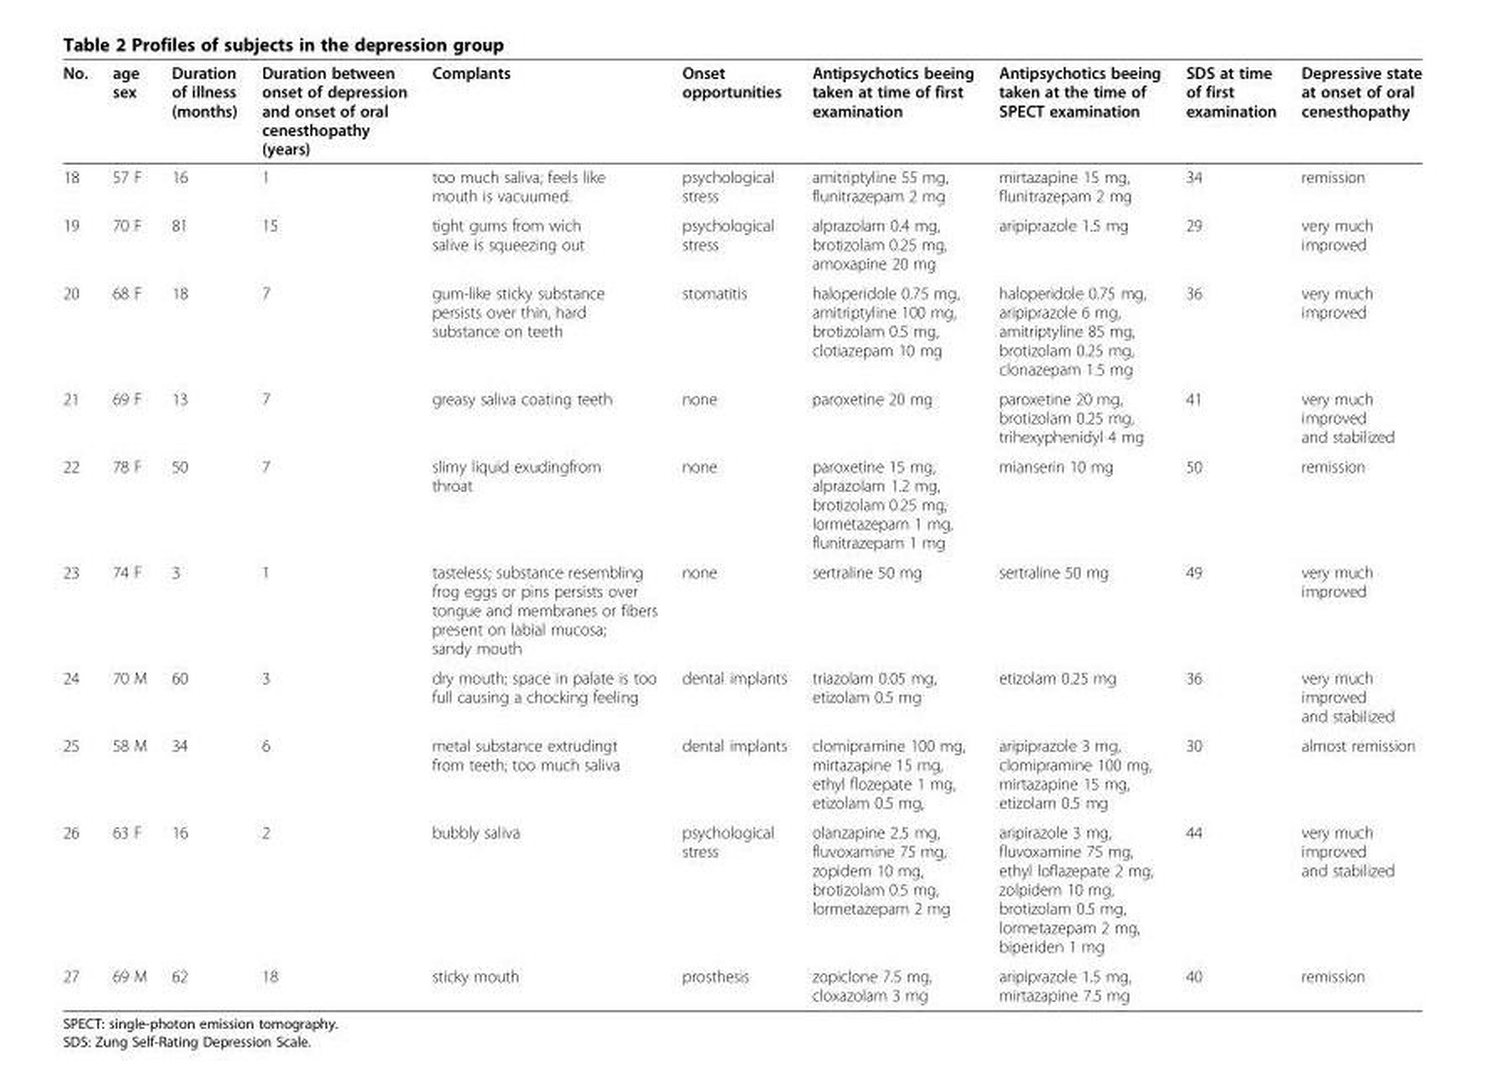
<table><thead><tr><td>No.</td><td>age sex</td><td>Duration of illness (months)</td><td>Duration between onset of depression and onset of oral cenesthopathy (years)</td><td>Complants</td><td>Onset opportunities</td><td>Antipsychotics beeing taken at time of first examination</td><td>Antipsychotics beeing taken at the time of SPECT examination</td><td>SDS at time of first examination</td><td>Depressive state at onset of oral cenesthopathy</td></tr></thead><tbody><tr><td>18</td><td>57 F</td><td>16</td><td>1</td><td>too much saliva; feels like mouth is vacuumed.</td><td>psychological stress</td><td>amitriptyline 55 mg, flunitrazepam 2 mg</td><td>mirtazapine 15 mg, flunitrazepam 2 mg</td><td>34</td><td>remission</td></tr><tr><td>19</td><td>70 F</td><td>81</td><td>15</td><td>tight gums from wich salive is squeezing out</td><td>psychological stress</td><td>alprazolam 0.4 mg, brotizolam 0.25 mg, amoxapine 20 mg</td><td>aripiprazole 1.5 mg</td><td>29</td><td>very much improved</td></tr><tr><td>20</td><td>68 F</td><td>18</td><td>7</td><td>gum-like sticky substance persists over thin, hard substance on teeth</td><td>stomatitis</td><td>haloperidole 0.75 mg, amitriptyline 100 mg, brotizolam 0.5 mg, clotiazepam 10 mg</td><td>haloperidole 0.75 mg, aripiprazole 6 mg, amitriptyline 85 mg, brotizolam 0.25 mg, clonazepam 1.5 mg</td><td>36</td><td>very much improved</td></tr><tr><td>21</td><td>69 F</td><td>13</td><td>7</td><td>greasy saliva coating teeth</td><td>none</td><td>paroxetine 20 mg</td><td>paroxetine 20 mg, brotizolam 0.25 mg, trihexyphenidyl 4 mg</td><td>41</td><td>very much improved and stabilized</td></tr><tr><td>22</td><td>78 F</td><td>50</td><td>7</td><td>slimy liquid exudingfrom throat</td><td>none</td><td>paroxetine 15 mg, alprazolam 1.2 mg, brotizolam 0.25 mg, lormetazepam 1 mg, flunitrazepam 1 mg</td><td>mianserin 10 mg</td><td>50</td><td>remission</td></tr><tr><td>23</td><td>74 F</td><td>3</td><td>1</td><td>tasteless; substance resembling frog eggs or pins persists over tongue and membranes or fibers present on labial mucosa; sandy mouth</td><td>none</td><td>sertraline 50 mg</td><td>sertraline 50 mg</td><td>49</td><td>very much improved</td></tr><tr><td>24</td><td>70 M</td><td>60</td><td>3</td><td>dry mouth; space in palate is too full causing a chocking feeling</td><td>dental implants</td><td>triazolam 0.05 mg, etizolam 0.5 mg</td><td>etizolam 0.25 mg</td><td>36</td><td>very much improved and stabilized</td></tr><tr><td>25</td><td>58 M</td><td>34</td><td>6</td><td>metal substance extrudingt from teeth; too much saliva</td><td>dental implants</td><td>clomipramine 100 mg, mirtazapine 15 mg, ethyl flozepate 1 mg, etizolam 0.5 mg,</td><td>aripiprazole 3 mg, clomipramine 100 mg, mirtazapine 15 mg, etizolam 0.5 mg</td><td>30</td><td>almost remission</td></tr><tr><td>26</td><td>63 F</td><td>16</td><td>2</td><td>bubbly saliva</td><td>psychological stress</td><td>olanzapine 2.5 mg, fluvoxamine 75 mg, zopidem 10 mg, brotizolam 0.5 mg, lormetazepam 2 mg</td><td>aripirazole 3 mg, fluvoxamine 75 mg, ethyl loflazepate 2 mg, zolpidem 10 mg, brotizolam 0.5 mg, lormetazepam 2 mg, biperiden 1 mg</td><td>44</td><td>very much improved and stabilized</td></tr><tr><td>27</td><td>69 M</td><td>62</td><td>18</td><td>sticky mouth</td><td>prosthesis</td><td>zopiclone 7.5 mg, cloxazolam 3 mg</td><td>aripiprazole 1.5 mg, mirtazapine 7.5 mg</td><td>40</td><td>remission</td></tr></tbody></table>